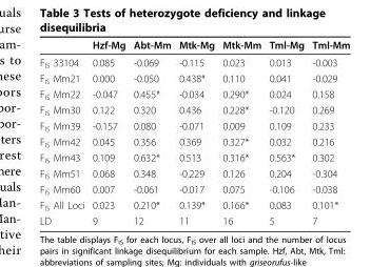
<table><thead><tr><td></td><td>Hzf-Mg</td><td>Abt-Mm</td><td>Mtk-Mg</td><td>Mtk-Mm</td><td>Tml-Mg</td><td>Tml-Mm</td></tr></thead><tbody><tr><td>F<sub>IS</sub> 33104</td><td>0.085</td><td>-0.069</td><td>-0.115</td><td>0.023</td><td>0.013</td><td>-0.003</td></tr><tr><td>F<sub>IS</sub> Mm21</td><td>0.000</td><td>-0.050</td><td>0.438*</td><td>0.110</td><td>0.041</td><td>-0.029</td></tr><tr><td>F<sub>IS</sub> Mm22</td><td>-0.047</td><td>0.455*</td><td>-0.034</td><td>0.290*</td><td>0.024</td><td>0.158</td></tr><tr><td>F<sub>IS</sub> Mm30</td><td>0.122</td><td>0.320</td><td>0.436</td><td>0.228*</td><td>-0.120</td><td>0.269</td></tr><tr><td>F<sub>IS</sub> Mm39</td><td>-0.157</td><td>0.080</td><td>-0.071</td><td>0.009</td><td>0.109</td><td>0.233</td></tr><tr><td>F<sub>IS</sub> Mm42</td><td>0.045</td><td>0.356</td><td>0.369</td><td>0.327*</td><td>0.032</td><td>0.216</td></tr><tr><td>F<sub>IS</sub> Mm43</td><td>0.109</td><td>0.632*</td><td>0.513</td><td>0.316*</td><td>0.563*</td><td>0.302</td></tr><tr><td>F<sub>IS</sub> Mm51</td><td>0.068</td><td>0.348</td><td>-0.229</td><td>0.126</td><td>0.204</td><td>-0.304</td></tr><tr><td>F<sub>IS</sub> Mm60</td><td>0.007</td><td>-0.061</td><td>-0.017</td><td>0.075</td><td>-0.106</td><td>-0.038</td></tr><tr><td>F<sub>IS</sub> All Loci</td><td>0.023</td><td>0.210*</td><td>0.139*</td><td>0.166*</td><td>0.083</td><td>0.101*</td></tr><tr><td>LD</td><td>9</td><td>12</td><td>11</td><td>16</td><td>5</td><td>7</td></tr></tbody></table>